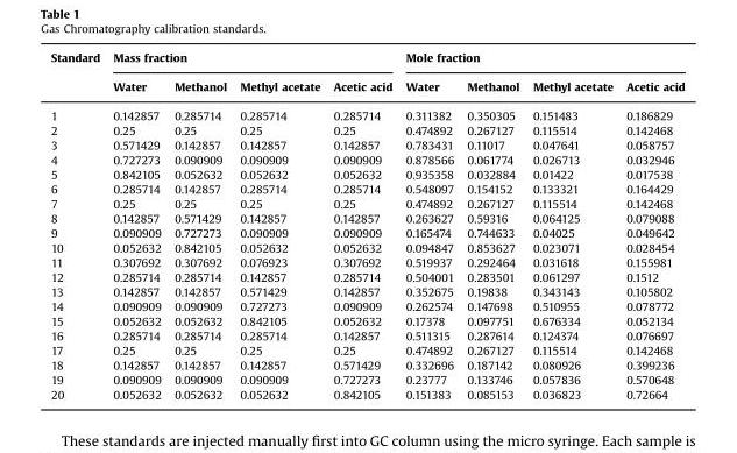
<table><thead><tr><td rowspan="2">Standard</td><td colspan="4">Mass fraction</td><td colspan="4">Mole fraction</td></tr><tr><td>Water</td><td>Methanol</td><td>Methyl acetate</td><td>Acetic acid</td><td>Water</td><td>Methanol</td><td>Methyl acetate</td><td>Acetic acid</td></tr></thead><tbody><tr><td>1</td><td>0.142857</td><td>0.285714</td><td>0.285714</td><td>0.285714</td><td>0.311382</td><td>0.350305</td><td>0.151483</td><td>0.186829</td></tr><tr><td>2</td><td>0.25</td><td>0.25</td><td>0.25</td><td>0.25</td><td>0.474892</td><td>0.267127</td><td>0.115514</td><td>0.142468</td></tr><tr><td>3</td><td>0.571429</td><td>0.142857</td><td>0.142857</td><td>0.142857</td><td>0.783431</td><td>0.11017</td><td>0.047641</td><td>0.058757</td></tr><tr><td>4</td><td>0.727273</td><td>0.090909</td><td>0.090909</td><td>0.090909</td><td>0.878566</td><td>0.061774</td><td>0.026713</td><td>0.032946</td></tr><tr><td>5</td><td>0.842105</td><td>0.052632</td><td>0.052632</td><td>0.052632</td><td>0.935358</td><td>0.032884</td><td>0.01422</td><td>0.017538</td></tr><tr><td>6</td><td>0.285714</td><td>0.142857</td><td>0.285714</td><td>0.285714</td><td>0.548097</td><td>0.154152</td><td>0.133321</td><td>0.164429</td></tr><tr><td>7</td><td>0.25</td><td>0.25</td><td>0.25</td><td>0.25</td><td>0.474892</td><td>0.267127</td><td>0.115514</td><td>0.142468</td></tr><tr><td>8</td><td>0.142857</td><td>0.571429</td><td>0.142857</td><td>0.142857</td><td>0.263627</td><td>0.59316</td><td>0.064125</td><td>0.079088</td></tr><tr><td>9</td><td>0.090909</td><td>0.727273</td><td>0.090909</td><td>0.090909</td><td>0.165474</td><td>0.744633</td><td>0.04025</td><td>0.049642</td></tr><tr><td>10</td><td>0.052632</td><td>0.842105</td><td>0.052632</td><td>0.052632</td><td>0.094847</td><td>0.853627</td><td>0.023071</td><td>0.028454</td></tr><tr><td>11</td><td>0.307692</td><td>0.307692</td><td>0.076923</td><td>0.307692</td><td>0.519937</td><td>0.292464</td><td>0.031618</td><td>0.155981</td></tr><tr><td>12</td><td>0.285714</td><td>0.285714</td><td>0.142857</td><td>0.285714</td><td>0.504001</td><td>0.283501</td><td>0.061297</td><td>0.1512</td></tr><tr><td>13</td><td>0.142857</td><td>0.142857</td><td>0.571429</td><td>0.142857</td><td>0.352675</td><td>0.19838</td><td>0.343143</td><td>0.105802</td></tr><tr><td>14</td><td>0.090909</td><td>0.090909</td><td>0.727273</td><td>0.090909</td><td>0.262574</td><td>0.147698</td><td>0.510955</td><td>0.078772</td></tr><tr><td>15</td><td>0.052632</td><td>0.052632</td><td>0.842105</td><td>0.052632</td><td>0.17378</td><td>0.097751</td><td>0.676334</td><td>0.052134</td></tr><tr><td>16</td><td>0.285714</td><td>0.285714</td><td>0.285714</td><td>0.142857</td><td>0.511315</td><td>0.287614</td><td>0.124374</td><td>0.076697</td></tr><tr><td>17</td><td>0.25</td><td>0.25</td><td>0.25</td><td>0.25</td><td>0.474892</td><td>0.267127</td><td>0.115514</td><td>0.142468</td></tr><tr><td>18</td><td>0.142857</td><td>0.142857</td><td>0.142857</td><td>0.571429</td><td>0.332696</td><td>0.187142</td><td>0.080926</td><td>0.399236</td></tr><tr><td>19</td><td>0.090909</td><td>0.090909</td><td>0.090909</td><td>0.727273</td><td>0.23777</td><td>0.133746</td><td>0.057836</td><td>0.570648</td></tr><tr><td>20</td><td>0.052632</td><td>0.052632</td><td>0.052632</td><td>0.842105</td><td>0.151383</td><td>0.085153</td><td>0.036823</td><td>0.72664</td></tr></tbody></table>